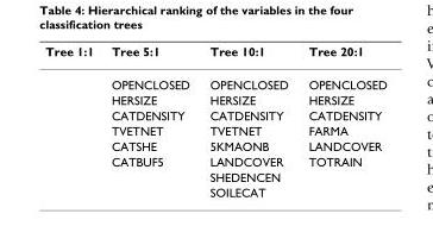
<table><thead><tr><td>Tree 1:1</td><td>Tree 5:1</td><td>Tree 10:1</td><td>Tree 20:1</td></tr></thead><tbody><tr><td></td><td>OPENCLOSED</td><td>OPENCLOSED</td><td>OPENCLOSED</td></tr><tr><td></td><td>HERSIZE</td><td>HERSIZE</td><td>HERSIZE</td></tr><tr><td></td><td>CATDENSITY</td><td>CATDENSITY</td><td>CATDENSITY</td></tr><tr><td></td><td>TVETNET</td><td>TVETNET</td><td>FARMA</td></tr><tr><td></td><td>CATSHE</td><td>5KMAONB</td><td>LANDCOVER</td></tr><tr><td></td><td>CATBUF5</td><td>LANDCOVER</td><td>TOTRAIN</td></tr><tr><td></td><td></td><td>SHEDENCEN</td><td></td></tr><tr><td></td><td></td><td>SOILECAT</td><td></td></tr></tbody></table>